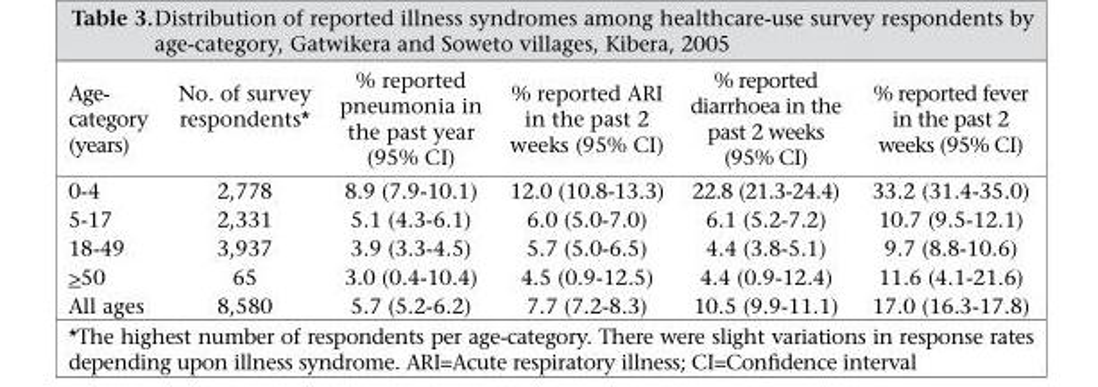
<table><thead><tr><td>Age- category (years)</td><td>No. of survey respondents*</td><td>% reported pneumonia in the past year (95% CI)</td><td>% reported ARI in the past 2 weeks (95% CI)</td><td>% reported diarrhoea in the past 2 weeks (95% CI)</td><td>% reported fever in the past 2 weeks (95% CI)</td></tr></thead><tbody><tr><td>0-4</td><td>2,778</td><td>8.9 (7.9-10.1)</td><td>12.0 (10.8-13.3)</td><td>22.8 (21.3-24.4)</td><td>33.2 (31.4-35.0)</td></tr><tr><td>5-17</td><td>2,331</td><td>5.1 (4.3-6.1)</td><td>6.0 (5.0-7.0)</td><td>6.1 (5.2-7.2)</td><td>10.7 (9.5-12.1)</td></tr><tr><td>18-49</td><td>3,937</td><td>3.9 (3.3-4.5)</td><td>5.7 (5.0-6.5)</td><td>4.4 (3.8-5.1)</td><td>9.7 (8.8-10.6)</td></tr><tr><td>&gt;50</td><td>65</td><td>3.0 (0.4-10.4)</td><td>4.5 (0.9-12.5)</td><td>4.4 (0.9-12.4)</td><td>11.6 (4.1-21.6)</td></tr><tr><td>All ages</td><td>8,580</td><td>5.7 (5.2-6.2)</td><td>7.7 (7.2-8.3)</td><td>10.5 (9.9-11.1)</td><td>17.0 (16.3-17.8)</td></tr></tbody></table>